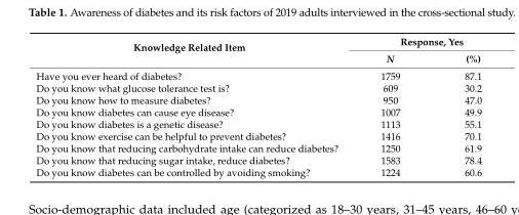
<table><thead><tr><td rowspan="2">Knowledge Related Item</td><td colspan="2">Response, Yes</td></tr><tr><td>N</td><td>(%)</td></tr></thead><tbody><tr><td>Have you ever heard of diabetes?</td><td>1759</td><td>87.1</td></tr><tr><td>Do you know what glucose tolerance test is?</td><td>609</td><td>30.2</td></tr><tr><td>Do you know how to measure diabetes?</td><td>950</td><td>47.0</td></tr><tr><td>Do you know diabetes can cause eye disease?</td><td>1007</td><td>49.9</td></tr><tr><td>Do you know diabetes is a genetic disease?</td><td>1113</td><td>55.1</td></tr><tr><td>Do you know exercise can be helpful to prevent diabetes?</td><td>1416</td><td>70.1</td></tr><tr><td>Do you know that reducing carbohydrate intake can reduce diabetes?</td><td>1250</td><td>61.9</td></tr><tr><td>Do you know that reducing sugar intake, reduce diabetes?</td><td>1583</td><td>78.4</td></tr><tr><td>Do you know diabetes can be controlled by avoiding smoking?</td><td>1224</td><td>60.6</td></tr></tbody></table>